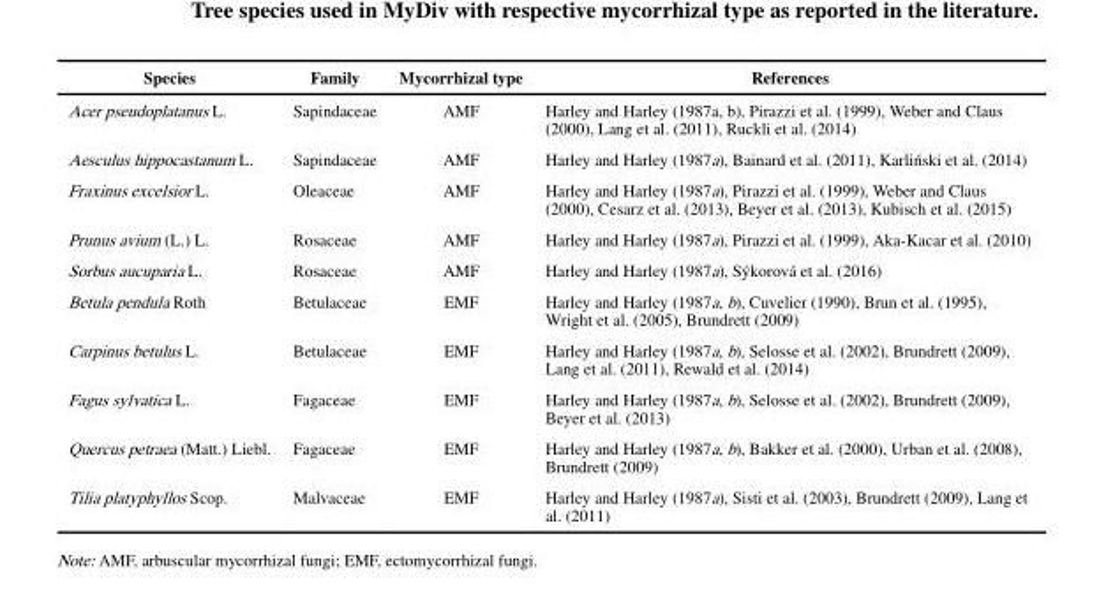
<table><thead><tr><td>Species</td><td>Family</td><td>Mycorrhizal type</td><td>References</td></tr></thead><tbody><tr><td>Acer pseudoplatanus L.</td><td>Sapindaceae</td><td>AMF</td><td>Harley and Harley (1987a, b), Pirazzi et al. (1999), Weber and Claus (2000), Lang et al. (2011), Ruckli et al. (2014)</td></tr><tr><td>Aesculus hippocastanum L.</td><td>Sapindaceae</td><td>AMF</td><td>Harley and Harley (1987a), Bainard et al. (2011), Karliński et al. (2014)</td></tr><tr><td>Fraxinus excelsior L.</td><td>Oleaceae</td><td>AMF</td><td>Harley and Harley (1987a), Pirazzi et al. (1999), Weber and Claus (2000), Cesarz et al. (2013), Beyer et al. (2013), Kubisch et al. (2015)</td></tr><tr><td>Prunus avium (L.) L.</td><td>Rosaceae</td><td>AMF</td><td>Harley and Harley (1987a), Pirazzi et al. (1999), Aka-Kacar et al. (2010)</td></tr><tr><td>Sorbus aucuparia L.</td><td>Rosaceae</td><td>AMF</td><td>Harley and Harley (1987a), Sýkorová et al. (2016)</td></tr><tr><td>Betula pendula Roth</td><td>Betulaceae</td><td>EMF</td><td>Harley and Harley (1987a, b), Cuvelier (1990), Brun et al. (1995), Wright et al. (2005), Brundrett (2009)</td></tr><tr><td>Carpinus betulus L.</td><td>Betulaceae</td><td>EMF</td><td>Harley and Harley (1987a, b), Selosse et al. (2002), Brundrett (2009), Lang et al. (2011), Rewald et al. (2014)</td></tr><tr><td>Fagus sylvatica L.</td><td>Fagaceae</td><td>EMF</td><td>Harley and Harley (1987a, b), Selosse et al. (2002), Brundrett (2009), Beyer et al. (2013)</td></tr><tr><td>Quercus petraea (Matt.) Liebl.</td><td>Fagaceae</td><td>EMF</td><td>Harley and Harley (1987a, b), Bakker et al. (2000), Urban et al. (2008), Brundrett (2009)</td></tr><tr><td>Tilia platyphyllos Scop.</td><td>Malvaceae</td><td>EMF</td><td>Harley and Harley (1987a), Sisti et al. (2003), Brundrett (2009), Lang et al. (2011)</td></tr></tbody></table>